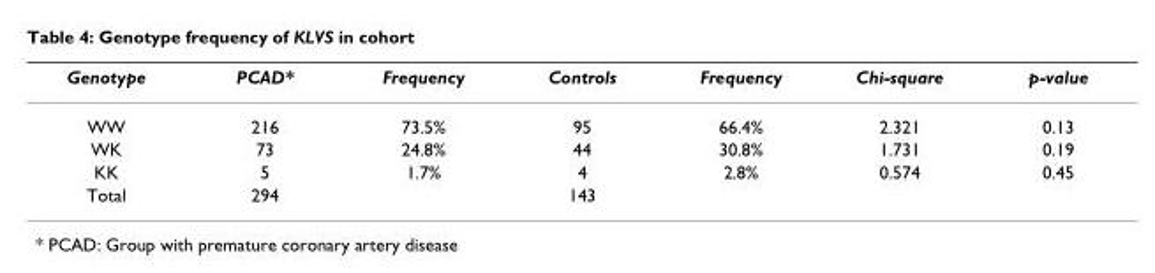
<table><thead><tr><td>Genotype</td><td>PCAD*</td><td>Frequency</td><td>Controls</td><td>Frequency</td><td>Chi-square</td><td>p-value</td></tr></thead><tbody><tr><td>WW</td><td>216</td><td>73.5%</td><td>95</td><td>66.4%</td><td>2.321</td><td>0.13</td></tr><tr><td>WK</td><td>73</td><td>24.8%</td><td>44</td><td>30.8%</td><td>1.731</td><td>0.19</td></tr><tr><td>KK</td><td>5</td><td>1.7%</td><td>4</td><td>2.8%</td><td>0.574</td><td>0.45</td></tr><tr><td>Total</td><td>294</td><td></td><td>143</td><td></td><td></td><td></td></tr></tbody></table>